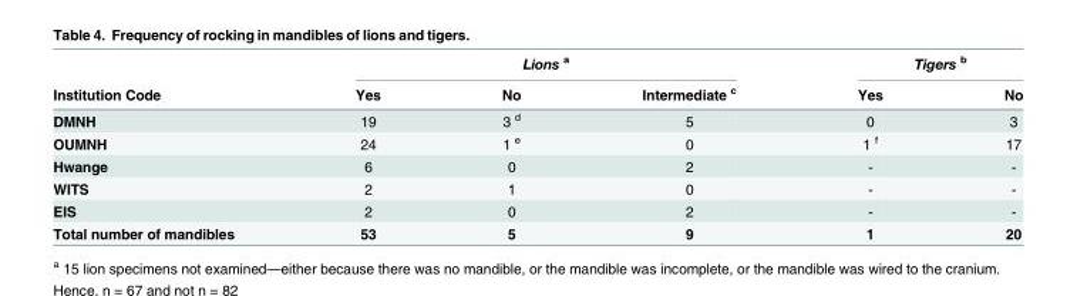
<table><thead><tr><td rowspan="2">Institution Code</td><td colspan="3">Lions <sup>a</sup></td><td colspan="2">Tigers <sup>b</sup></td></tr><tr><td>Yes</td><td>No</td><td>Intermediate <sup>c</sup></td><td>Yes</td><td>No</td></tr></thead><tbody><tr><td>DMNH</td><td>19</td><td>3 <sup>d</sup></td><td>5</td><td>0</td><td>3</td></tr><tr><td>OUMNH</td><td>24</td><td>1 <sup>e</sup></td><td>0</td><td>1 <sup>f</sup></td><td>17</td></tr><tr><td>Hwange</td><td>6</td><td>0</td><td>2</td><td>-</td><td>-</td></tr><tr><td>WITS</td><td>2</td><td>1</td><td>0</td><td>-</td><td>-</td></tr><tr><td>EIS</td><td>2</td><td>0</td><td>2</td><td>-</td><td>-</td></tr><tr><td>Total number of mandibles</td><td>53</td><td>5</td><td>9</td><td>1</td><td>20</td></tr></tbody></table>